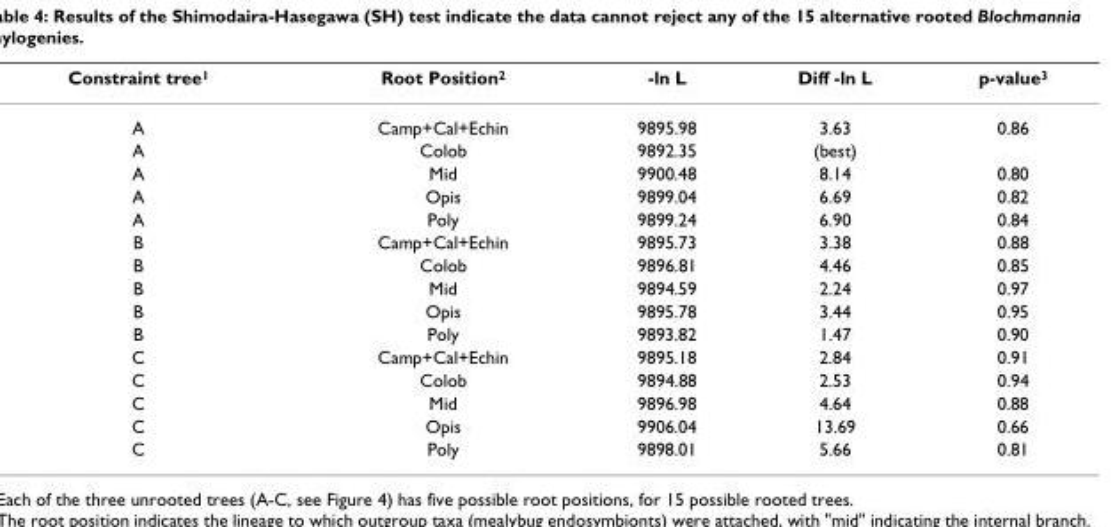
<table><thead><tr><td>Constraint tree<sup>1</sup></td><td>Root Position<sup>2</sup></td><td>-ln L</td><td>Diff -ln L</td><td>p-value<sup>3</sup></td></tr></thead><tbody><tr><td>A</td><td>Camp+Cal+Echin</td><td>9895.98</td><td>3.63</td><td>0.86</td></tr><tr><td>A</td><td>Colob</td><td>9892.35</td><td>(best)</td><td></td></tr><tr><td>A</td><td>Mid</td><td>9900.48</td><td>8.14</td><td>0.80</td></tr><tr><td>A</td><td>Opis</td><td>9899.04</td><td>6.69</td><td>0.82</td></tr><tr><td>A</td><td>Poly</td><td>9899.24</td><td>6.90</td><td>0.84</td></tr><tr><td>B</td><td>Camp+Cal+Echin</td><td>9895.73</td><td>3.38</td><td>0.88</td></tr><tr><td>B</td><td>Colob</td><td>9896.81</td><td>4.46</td><td>0.85</td></tr><tr><td>B</td><td>Mid</td><td>9894.59</td><td>2.24</td><td>0.97</td></tr><tr><td>B</td><td>Opis</td><td>9895.78</td><td>3.44</td><td>0.95</td></tr><tr><td>B</td><td>Poly</td><td>9893.82</td><td>1.47</td><td>0.90</td></tr><tr><td>C</td><td>Camp+Cal+Echin</td><td>9895.18</td><td>2.84</td><td>0.91</td></tr><tr><td>C</td><td>Colob</td><td>9894.88</td><td>2.53</td><td>0.94</td></tr><tr><td>C</td><td>Mid</td><td>9896.98</td><td>4.64</td><td>0.88</td></tr><tr><td>C</td><td>Opis</td><td>9906.04</td><td>13.69</td><td>0.66</td></tr><tr><td>C</td><td>Poly</td><td>9898.01</td><td>5.66</td><td>0.81</td></tr></tbody></table>